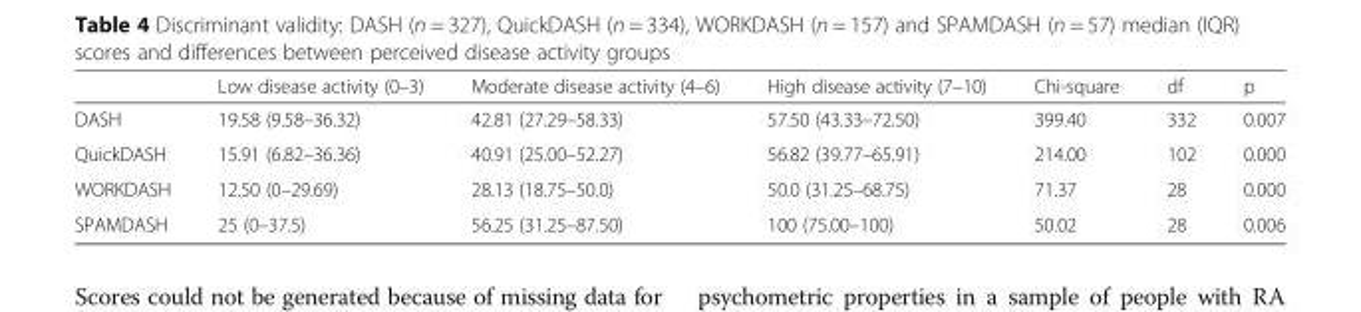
<table><thead><tr><td></td><td>Low disease activity (0–3)</td><td>Moderate disease activity (4–6)</td><td>High disease activity (7–10)</td><td>Chi-square</td><td>df</td><td>p</td></tr></thead><tbody><tr><td>DASH</td><td>19.58 (9.58–36.32)</td><td>42.81 (27.29–58.33)</td><td>57.50 (43.33–72.50)</td><td>399.40</td><td>332</td><td>0.007</td></tr><tr><td>QuickDASH</td><td>15.91 (6.82–36.36)</td><td>40.91 (25.00–52.27)</td><td>56.82 (39.77–65.91)</td><td>214.00</td><td>102</td><td>0.000</td></tr><tr><td>WORKDASH</td><td>12.50 (0–29.69)</td><td>28.13 (18.75–50.0)</td><td>50.0 (31.25–68.75)</td><td>71.37</td><td>28</td><td>0.000</td></tr><tr><td>SPAMDASH</td><td>25 (0–37.5)</td><td>56.25 (31.25–87.50)</td><td>100 (75.00–100)</td><td>50.02</td><td>28</td><td>0.006</td></tr></tbody></table>